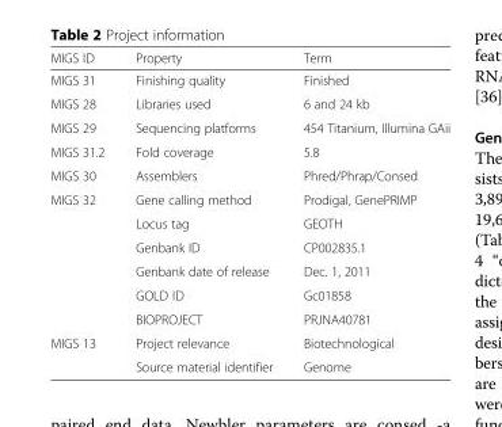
<table><thead><tr><td>MIGS ID</td><td>Property</td><td>Term</td></tr></thead><tbody><tr><td>MIGS 31</td><td>Finishing quality</td><td>Finished</td></tr><tr><td>MIGS 28</td><td>Libraries used</td><td>6 and 24 kb</td></tr><tr><td>MIGS 29</td><td>Sequencing platforms</td><td>454 Titanium, Illumina GAii</td></tr><tr><td>MIGS 31.2</td><td>Fold coverage</td><td>5.8</td></tr><tr><td>MIGS 30</td><td>Assemblers</td><td>Phred/Phrap/Consed</td></tr><tr><td rowspan="6">MIGS 32</td><td>Gene calling method</td><td>Prodigal, GenePRIMP</td></tr><tr><td>Locus tag</td><td>GEOTH</td></tr><tr><td>Genbank ID</td><td>CP002835.1</td></tr><tr><td>Genbank date of release</td><td>Dec. 1, 2011</td></tr><tr><td>GOLD ID</td><td>Gc01858</td></tr><tr><td>BIOPROJECT</td><td>PRJNA40781</td></tr><tr><td rowspan="2">MIGS 13</td><td>Project relevance</td><td>Biotechnological</td></tr><tr><td>Source material identifier</td><td>Genome</td></tr></tbody></table>